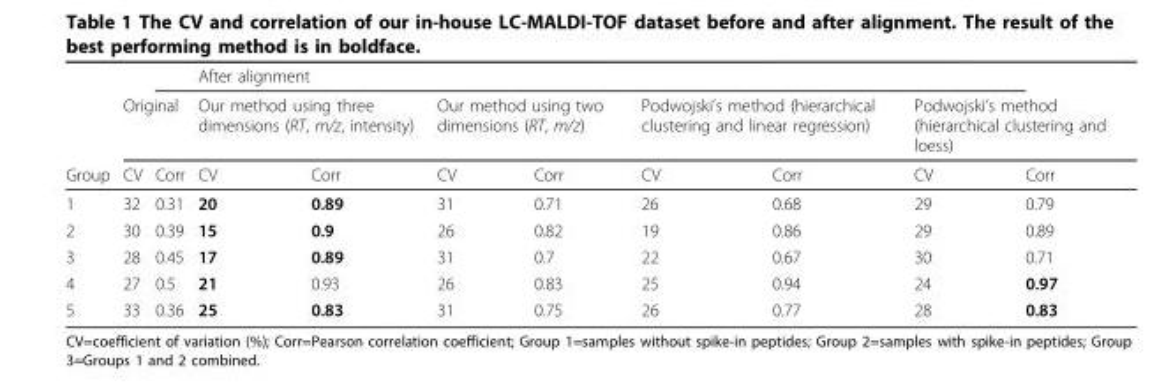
<table><thead><tr><td rowspan="3">Group</td><td></td><td></td><td colspan="8">After alignment</td></tr><tr><td colspan="2">Original</td><td colspan="2">Our method using three dimensions (RT, m/z, intensity)</td><td colspan="2">Our method using two dimensions (RT, m/z)</td><td colspan="2">Podwojski’s method (hierarchical clustering and linear regression)</td><td colspan="2">Podwojski’s method (hierarchical clustering and loess)</td></tr><tr><td>CV</td><td>Corr</td><td>CV</td><td>Corr</td><td>CV</td><td>Corr</td><td>CV</td><td>Corr</td><td>CV</td><td>Corr</td></tr></thead><tbody><tr><td>1</td><td>32</td><td>0.31</td><td>20</td><td>0.89</td><td>31</td><td>0.71</td><td>26</td><td>0.68</td><td>29</td><td>0.79</td></tr><tr><td>2</td><td>30</td><td>0.39</td><td>15</td><td>0.9</td><td>26</td><td>0.82</td><td>19</td><td>0.86</td><td>29</td><td>0.89</td></tr><tr><td>3</td><td>28</td><td>0.45</td><td>17</td><td>0.89</td><td>31</td><td>0.7</td><td>22</td><td>0.67</td><td>30</td><td>0.71</td></tr><tr><td>4</td><td>27</td><td>0.5</td><td>21</td><td>0.93</td><td>26</td><td>0.83</td><td>25</td><td>0.94</td><td>24</td><td>0.97</td></tr><tr><td>5</td><td>33</td><td>0.36</td><td>25</td><td>0.83</td><td>31</td><td>0.75</td><td>26</td><td>0.77</td><td>28</td><td>0.83</td></tr></tbody></table>